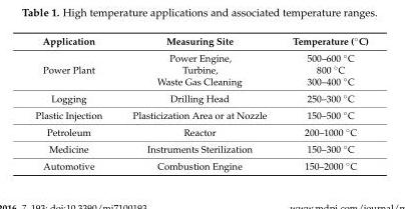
<table><thead><tr><td>Application</td><td>Measuring Site</td><td>Temperature (◦C)</td></tr></thead><tbody><tr><td>Power Plant</td><td>Power Engine, Turbine, Waste Gas Cleaning</td><td>500–600 ◦C 800 ◦C 300–400 ◦C</td></tr><tr><td>Logging</td><td>Drilling Head</td><td>250–300 ◦C</td></tr><tr><td>Plastic Injection</td><td>Plasticization Area or at Nozzle</td><td>150–500 ◦C</td></tr><tr><td>Petroleum</td><td>Reactor</td><td>200–1000 ◦C</td></tr><tr><td>Medicine</td><td>Instruments Sterilization</td><td>150–300 ◦C</td></tr><tr><td>Automotive</td><td>Combustion Engine</td><td>150–2000 ◦C</td></tr></tbody></table>